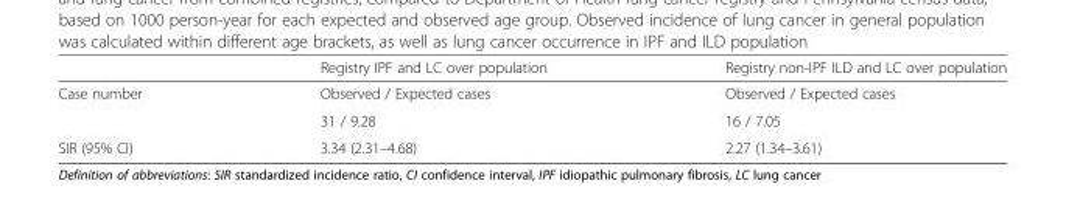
<table><thead><tr><td></td><td>Registry IPF and LC over population</td><td>Registry non-IPF ILD and LC over population</td></tr></thead><tbody><tr><td rowspan="2">Case number</td><td>Observed / Expected cases</td><td>Observed / Expected cases</td></tr><tr><td>31 / 9.28</td><td>16 / 7.05</td></tr><tr><td>SIR (95% CI)</td><td>3.34 (2.31–4.68)</td><td>2.27 (1.34–3.61)</td></tr></tbody></table>